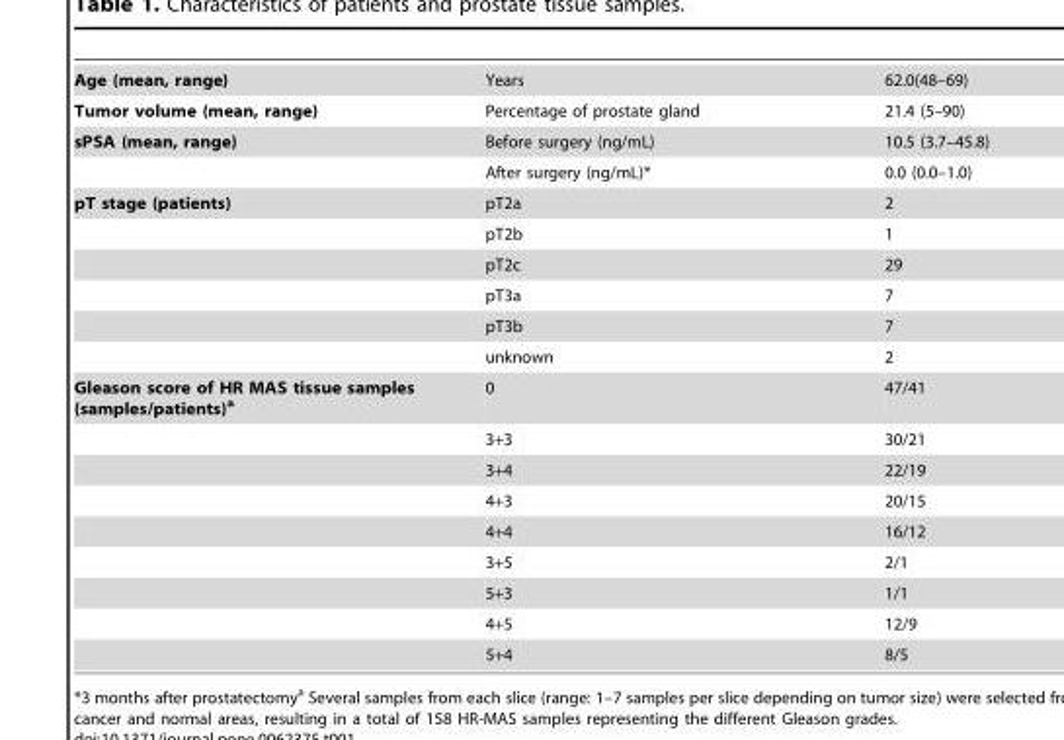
<table><tbody><tr><td>Age (mean, range)</td><td>Years</td><td>62.0(48–69)</td></tr><tr><td>Tumor volume (mean, range)</td><td>Percentage of prostate gland</td><td>21.4 (5–90)</td></tr><tr><td rowspan="2">sPSA (mean, range)</td><td>Before surgery (ng/mL)</td><td>10.5 (3.7–45.8)</td></tr><tr><td>After surgery (ng/mL)*</td><td>0.0 (0.0–1.0)</td></tr><tr><td rowspan="6">pT stage (patients)</td><td>pT2a</td><td>2</td></tr><tr><td>pT2b</td><td>1</td></tr><tr><td>pT2c</td><td>29</td></tr><tr><td>pT3a</td><td>7</td></tr><tr><td>pT3b</td><td>7</td></tr><tr><td>unknown</td><td>2</td></tr><tr><td rowspan="9">Gleason score of HR MAS tissue samples (samples/patients)<sup>a</sup></td><td>0</td><td>47/41</td></tr><tr><td>3+3</td><td>30/21</td></tr><tr><td>3+4</td><td>22/19</td></tr><tr><td>4+3</td><td>20/15</td></tr><tr><td>4+4</td><td>16/12</td></tr><tr><td>3+5</td><td>2/1</td></tr><tr><td>5+3</td><td>1/1</td></tr><tr><td>4+5</td><td>12/9</td></tr><tr><td>5+4</td><td>8/5</td></tr></tbody></table>